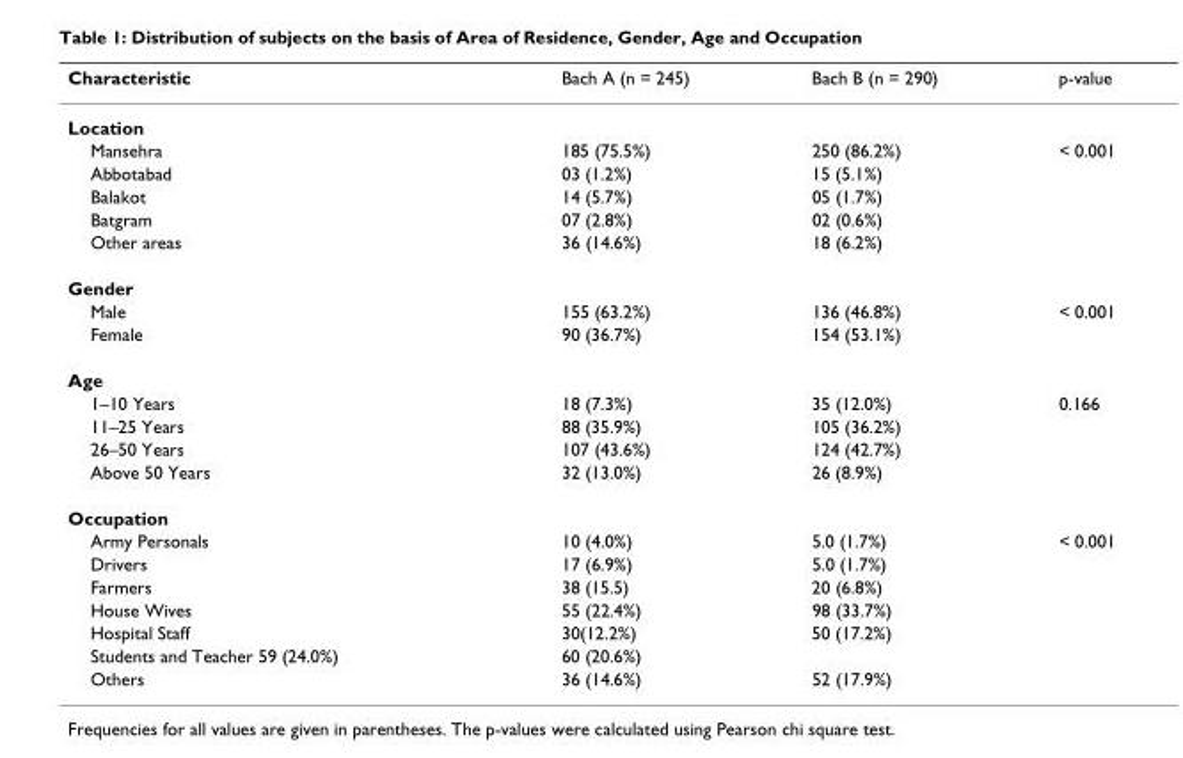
<table><thead><tr><td>Characteristic</td><td>Bach A (n = 245)</td><td>Bach B (n = 290)</td><td>p-value</td></tr></thead><tbody><tr><td colspan="4">Location</td></tr><tr><td>Mansehra</td><td>185 (75.5%)</td><td>250 (86.2%)</td><td>&lt; 0.001</td></tr><tr><td>Abbotabad</td><td>03 (1.2%)</td><td>15 (5.1%)</td><td></td></tr><tr><td>Balakot</td><td>14 (5.7%)</td><td>05 (1.7%)</td><td></td></tr><tr><td>Batgram</td><td>07 (2.8%)</td><td>02 (0.6%)</td><td></td></tr><tr><td>Other areas</td><td>36 (14.6%)</td><td>18 (6.2%)</td><td></td></tr><tr><td colspan="4">Gender</td></tr><tr><td>Male</td><td>155 (63.2%)</td><td>136 (46.8%)</td><td>&lt; 0.001</td></tr><tr><td>Female</td><td>90 (36.7%)</td><td>154 (53.1%)</td><td></td></tr><tr><td colspan="4">Age</td></tr><tr><td>1–10 Years</td><td>18 (7.3%)</td><td>35 (12.0%)</td><td>0.166</td></tr><tr><td>11–25 Years</td><td>88 (35.9%)</td><td>105 (36.2%)</td><td></td></tr><tr><td>26–50 Years</td><td>107 (43.6%)</td><td>124 (42.7%)</td><td></td></tr><tr><td>Above 50 Years</td><td>32 (13.0%)</td><td>26 (8.9%)</td><td></td></tr><tr><td colspan="4">Occupation</td></tr><tr><td>Army Personals</td><td>10 (4.0%)</td><td>5.0 (1.7%)</td><td>&lt; 0.001</td></tr><tr><td>Drivers</td><td>17 (6.9%)</td><td>5.0 (1.7%)</td><td></td></tr><tr><td>Farmers</td><td>38 (15.5)</td><td>20 (6.8%)</td><td></td></tr><tr><td>House Wives</td><td>55 (22.4%)</td><td>98 (33.7%)</td><td></td></tr><tr><td>Hospital Staff</td><td>30(12.2%)</td><td>50 (17.2%)</td><td></td></tr><tr><td>Students and Teacher 59 (24.0%)</td><td>60 (20.6%)</td><td></td><td></td></tr><tr><td>Others</td><td>36 (14.6%)</td><td>52 (17.9%)</td><td></td></tr></tbody></table>